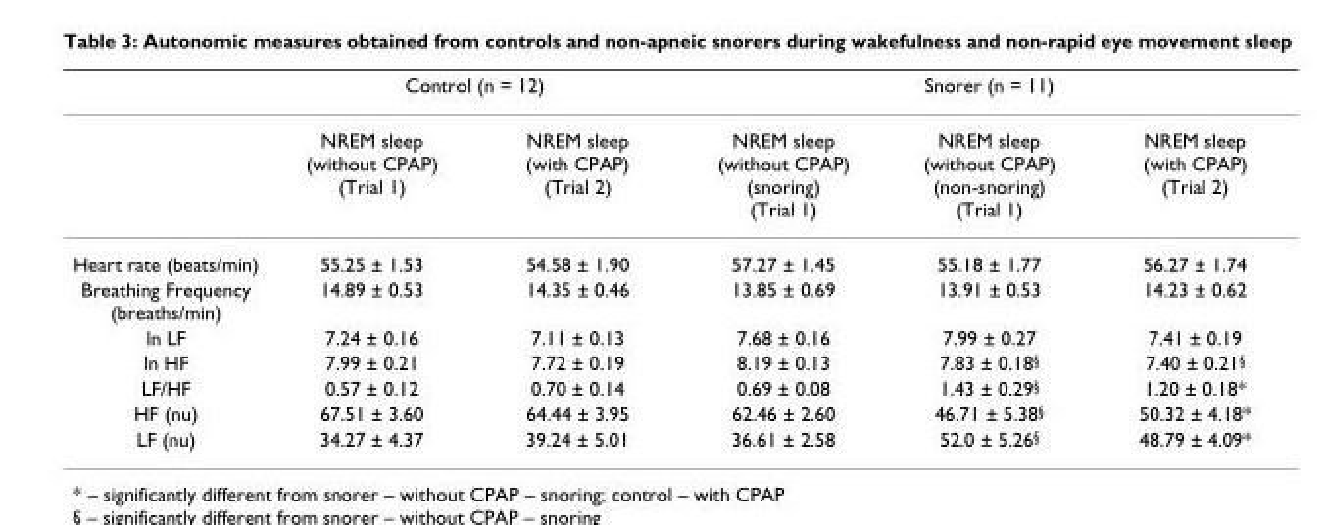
<table><thead><tr><td rowspan="2"></td><td colspan="2">Control (n = 12)</td><td colspan="3">Snorer (n = 11)</td></tr><tr><td>NREM sleep (without CPAP) (Trial 1)</td><td>NREM sleep (with CPAP) (Trial 2)</td><td>NREM sleep (without CPAP) (snoring) (Trial 1)</td><td>NREM sleep (without CPAP) (non-snoring) (Trial 1)</td><td>NREM sleep (with CPAP) (Trial 2)</td></tr></thead><tbody><tr><td>Heart rate (beats/min)</td><td>55.25 ± 1.53</td><td>54.58 ± 1.90</td><td>57.27 ± 1.45</td><td>55.18 ± 1.77</td><td>56.27 ± 1.74</td></tr><tr><td>Breathing Frequency (breaths/min)</td><td>14.89 ± 0.53</td><td>14.35 ± 0.46</td><td>13.85 ± 0.69</td><td>13.91 ± 0.53</td><td>14.23 ± 0.62</td></tr><tr><td>ln LF</td><td>7.24 ± 0.16</td><td>7.11 ± 0.13</td><td>7.68 ± 0.16</td><td>7.99 ± 0.27</td><td>7.41 ± 0.19</td></tr><tr><td>ln HF</td><td>7.99 ± 0.21</td><td>7.72 ± 0.19</td><td>8.19 ± 0.13</td><td>7.83 ± 0.18<sup>§</sup></td><td>7.40 ± 0.21<sup>§</sup></td></tr><tr><td>LF/HF</td><td>0.57 ± 0.12</td><td>0.70 ± 0.14</td><td>0.69 ± 0.08</td><td>1.43 ± 0.29<sup>§</sup></td><td>1.20 ± 0.18*</td></tr><tr><td>HF (nu)</td><td>67.51 ± 3.60</td><td>64.44 ± 3.95</td><td>62.46 ± 2.60</td><td>46.71 ± 5.38<sup>§</sup></td><td>50.32 ± 4.18*</td></tr><tr><td>LF (nu)</td><td>34.27 ± 4.37</td><td>39.24 ± 5.01</td><td>36.61 ± 2.58</td><td>52.0 ± 5.26<sup>§</sup></td><td>48.79 ± 4.09*</td></tr></tbody></table>